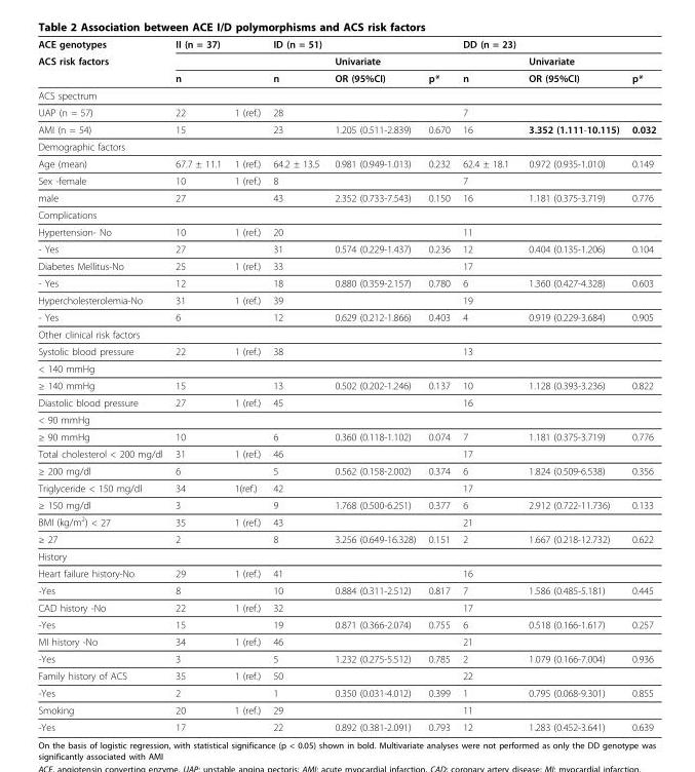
<table><thead><tr><td rowspan="3">ACE genotypes ACS risk factors</td><td rowspan="3">II (n = 37) n</td><td rowspan="3"></td><td rowspan="3">ID (n = 51) n</td><td rowspan="3">Univariate OR (95%CI)</td><td rowspan="3">p*</td><td rowspan="3">DD (n = 23) n</td><td rowspan="3">Univariate OR (95%CI)</td><td rowspan="3">p*</td></tr><tr></tr><tr></tr></thead><tbody><tr><td colspan="9">ACS spectrum</td></tr><tr><td>UAP (n = 57)</td><td>22</td><td>1 (ref.)</td><td>28</td><td></td><td></td><td>7</td><td></td><td></td></tr><tr><td>AMI (n = 54)</td><td>15</td><td></td><td>23</td><td>1.205 (0.511-2.839)</td><td>0.670</td><td>16</td><td>3.352 (1.111-10.115)</td><td>0.032</td></tr><tr><td colspan="9">Demographic factors</td></tr><tr><td>Age (mean)</td><td>67.7 ± 11.1</td><td>1 (ref.)</td><td>64.2 ± 13.5</td><td>0.981 (0.949-1.013)</td><td>0.232</td><td>62.4 ± 18.1</td><td>0.972 (0.935-1.010)</td><td>0.149</td></tr><tr><td>Sex -female</td><td>10</td><td>1 (ref.)</td><td>8</td><td></td><td></td><td>7</td><td></td><td></td></tr><tr><td>male</td><td>27</td><td></td><td>43</td><td>2.352 (0.733-7.543)</td><td>0.150</td><td>16</td><td>1.181 (0.375-3.719)</td><td>0.776</td></tr><tr><td colspan="9">Complications</td></tr><tr><td>Hypertension- No</td><td>10</td><td>1 (ref.)</td><td>20</td><td></td><td></td><td>11</td><td></td><td></td></tr><tr><td>- Yes</td><td>27</td><td></td><td>31</td><td>0.574 (0.229-1.437)</td><td>0.236</td><td>12</td><td>0.404 (0.135-1.206)</td><td>0.104</td></tr><tr><td>Diabetes Mellitus-No</td><td>25</td><td>1 (ref.)</td><td>33</td><td></td><td></td><td>17</td><td></td><td></td></tr><tr><td>- Yes</td><td>12</td><td></td><td>18</td><td>0.880 (0.359-2.157)</td><td>0.780</td><td>6</td><td>1.360 (0.427-4.328)</td><td>0.603</td></tr><tr><td>Hypercholesterolemia-No</td><td>31</td><td>1 (ref.)</td><td>39</td><td></td><td></td><td>19</td><td></td><td></td></tr><tr><td>- Yes</td><td>6</td><td></td><td>12</td><td>0.629 (0.212-1.866)</td><td>0.403</td><td>4</td><td>0.919 (0.229-3.684)</td><td>0.905</td></tr><tr><td colspan="9">Other clinical risk factors</td></tr><tr><td>Systolic blood pressure</td><td>22</td><td>1 (ref.)</td><td>38</td><td></td><td></td><td>13</td><td></td><td></td></tr><tr><td colspan="9">&lt; 140 mmHg</td></tr><tr><td>≥ 140 mmHg</td><td>15</td><td></td><td>13</td><td>0.502 (0.202-1.246)</td><td>0.137</td><td>10</td><td>1.128 (0.393-3.236)</td><td>0.822</td></tr><tr><td>Diastolic blood pressure</td><td>27</td><td>1 (ref.)</td><td>45</td><td></td><td></td><td>16</td><td></td><td></td></tr><tr><td colspan="9">&lt; 90 mmHg</td></tr><tr><td>≥ 90 mmHg</td><td>10</td><td></td><td>6</td><td>0.360 (0.118-1.102)</td><td>0.074</td><td>7</td><td>1.181 (0.375-3.719)</td><td>0.776</td></tr><tr><td>Total cholesterol &lt; 200 mg/dl</td><td>31</td><td>1 (ref.)</td><td>46</td><td></td><td></td><td>17</td><td></td><td></td></tr><tr><td>≥ 200 mg/dl</td><td>6</td><td></td><td>5</td><td>0.562 (0.158-2.002)</td><td>0.374</td><td>6</td><td>1.824 (0.509-6.538)</td><td>0.356</td></tr><tr><td>Triglyceride &lt; 150 mg/dl</td><td>34</td><td>1(ref.)</td><td>42</td><td></td><td></td><td>17</td><td></td><td></td></tr><tr><td>≥ 150 mg/dl</td><td>3</td><td></td><td>9</td><td>1.768 (0.500-6.251)</td><td>0.377</td><td>6</td><td>2.912 (0.722-11.736)</td><td>0.133</td></tr><tr><td>BMI (kg/m<sup>2</sup>) &lt; 27</td><td>35</td><td>1 (ref.)</td><td>43</td><td></td><td></td><td>21</td><td></td><td></td></tr><tr><td>≥ 27</td><td>2</td><td></td><td>8</td><td>3.256 (0.649-16.328)</td><td>0.151</td><td>2</td><td>1.667 (0.218-12.732)</td><td>0.622</td></tr><tr><td colspan="9">History</td></tr><tr><td>Heart failure history-No</td><td>29</td><td>1 (ref.)</td><td>41</td><td></td><td></td><td>16</td><td></td><td></td></tr><tr><td>-Yes</td><td>8</td><td></td><td>10</td><td>0.884 (0.311-2.512)</td><td>0.817</td><td>7</td><td>1.586 (0.485-5.181)</td><td>0.445</td></tr><tr><td>CAD history -No</td><td>22</td><td>1 (ref.)</td><td>32</td><td></td><td></td><td>17</td><td></td><td></td></tr><tr><td>-Yes</td><td>15</td><td></td><td>19</td><td>0.871 (0.366-2.074)</td><td>0.755</td><td>6</td><td>0.518 (0.166-1.617)</td><td>0.257</td></tr><tr><td>MI history -No</td><td>34</td><td>1 (ref.)</td><td>46</td><td></td><td></td><td>21</td><td></td><td></td></tr><tr><td>-Yes</td><td>3</td><td></td><td>5</td><td>1.232 (0.275-5.512)</td><td>0.785</td><td>2</td><td>1.079 (0.166-7.004)</td><td>0.936</td></tr><tr><td>Family history of ACS</td><td>35</td><td>1 (ref.)</td><td>50</td><td></td><td></td><td>22</td><td></td><td></td></tr><tr><td>-Yes</td><td>2</td><td></td><td>1</td><td>0.350 (0.031-4.012)</td><td>0.399</td><td>1</td><td>0.795 (0.068-9.301)</td><td>0.855</td></tr><tr><td>Smoking</td><td>20</td><td>1 (ref.)</td><td>29</td><td></td><td></td><td>11</td><td></td><td></td></tr><tr><td>-Yes</td><td>17</td><td></td><td>22</td><td>0.892 (0.381-2.091)</td><td>0.793</td><td>12</td><td>1.283 (0.452-3.641)</td><td>0.639</td></tr></tbody></table>